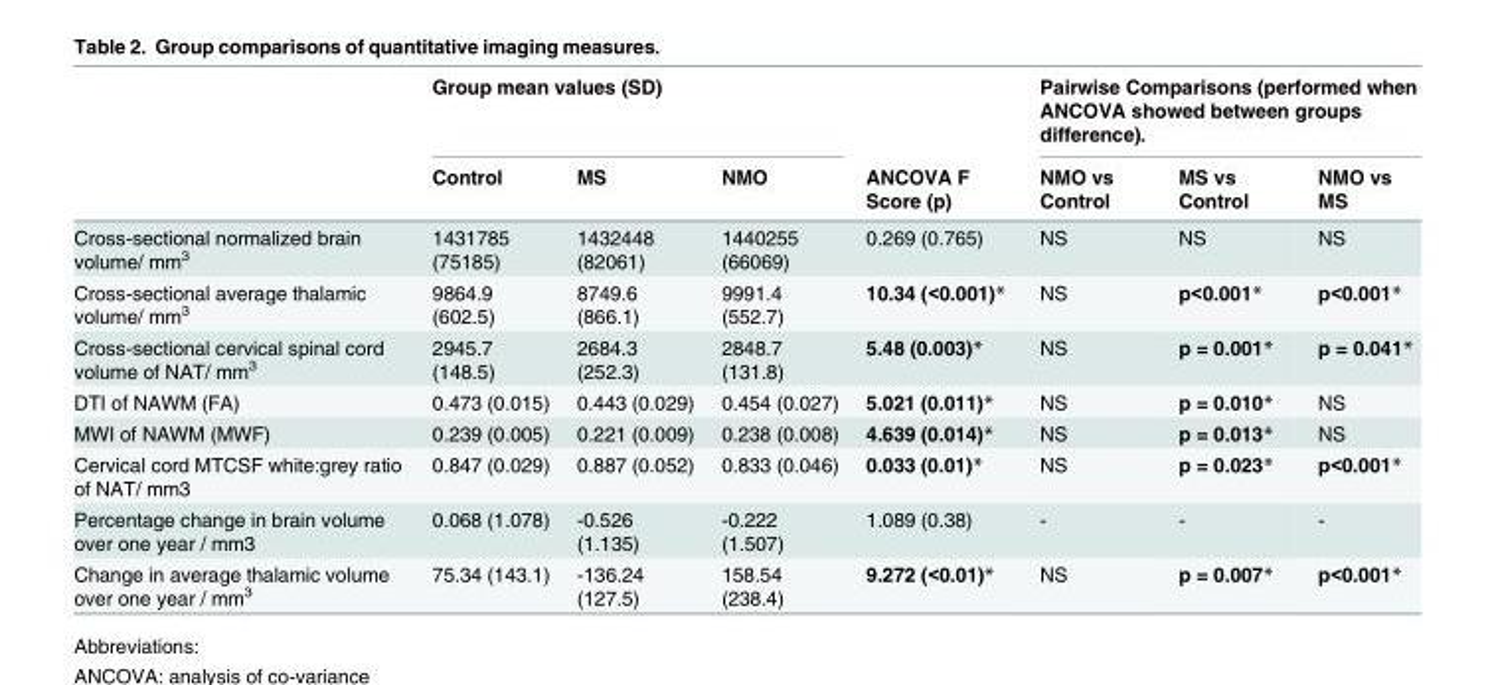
<table><thead><tr><td rowspan="2"></td><td colspan="3">Group mean values (SD)</td><td rowspan="2">ANCOVA F Score (p)</td><td colspan="3">Pairwise Comparisons (performed when ANCOVA showed between groups difference).</td></tr><tr><td>Control</td><td>MS</td><td>NMO</td><td>NMO vs Control</td><td>MS vs Control</td><td>NMO vs MS</td></tr></thead><tbody><tr><td>Cross-sectional normalized brain volume/ mm<sup>3</sup></td><td>1431785 (75185)</td><td>1432448 (82061)</td><td>1440255 (66069)</td><td>0.269 (0.765)</td><td>NS</td><td>NS</td><td>NS</td></tr><tr><td>Cross-sectional average thalamic volume/ mm<sup>3</sup></td><td>9864.9 (602.5)</td><td>8749.6 (866.1)</td><td>9991.4 (552.7)</td><td>10.34 (&lt;0.001)*</td><td>NS</td><td>p&lt;0.001*</td><td>p&lt;0.001*</td></tr><tr><td>Cross-sectional cervical spinal cord volume of NAT/ mm<sup>3</sup></td><td>2945.7 (148.5)</td><td>2684.3 (252.3)</td><td>2848.7 (131.8)</td><td>5.48 (0.003)*</td><td>NS</td><td>p = 0.001*</td><td>p = 0.041*</td></tr><tr><td>DTI of NAWM (FA)</td><td>0.473 (0.015)</td><td>0.443 (0.029)</td><td>0.454 (0.027)</td><td>5.021 (0.011)*</td><td>NS</td><td>p = 0.010*</td><td>NS</td></tr><tr><td>MWI of NAWM (MWF)</td><td>0.239 (0.005)</td><td>0.221 (0.009)</td><td>0.238 (0.008)</td><td>4.639 (0.014)*</td><td>NS</td><td>p = 0.013*</td><td>NS</td></tr><tr><td>Cervical cord MTCSF white:grey ratio of NAT/ mm3</td><td>0.847 (0.029)</td><td>0.887 (0.052)</td><td>0.833 (0.046)</td><td>0.033 (0.01)*</td><td>NS</td><td>p = 0.023*</td><td>p&lt;0.001*</td></tr><tr><td>Percentage change in brain volume over one year / mm3</td><td>0.068 (1.078)</td><td>-0.526 (1.135)</td><td>-0.222 (1.507)</td><td>1.089 (0.38)</td><td>-</td><td>-</td><td>-</td></tr><tr><td>Change in average thalamic volume over one year / mm<sup>3</sup></td><td>75.34 (143.1)</td><td>-136.24 (127.5)</td><td>158.54 (238.4)</td><td>9.272 (&lt;0.01)*</td><td>NS</td><td>p = 0.007*</td><td>p&lt;0.001*</td></tr></tbody></table>